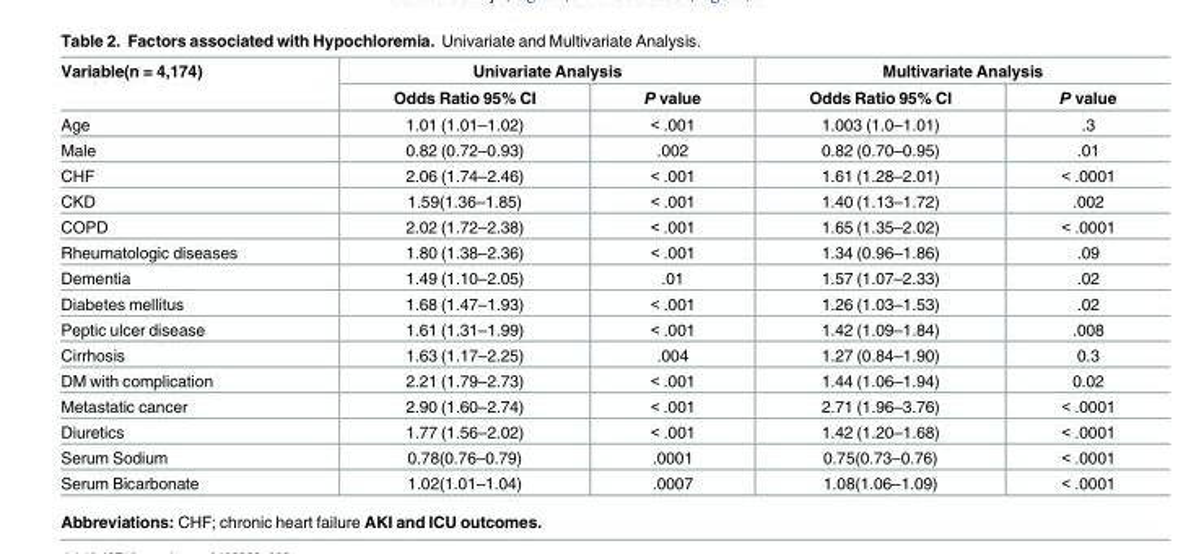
<table><thead><tr><td rowspan="2">Variable(n = 4,174)</td><td colspan="2">Univariate Analysis</td><td colspan="2">Multivariate Analysis</td></tr><tr><td>Odds Ratio 95% CI</td><td>P value</td><td>Odds Ratio 95% CI</td><td>P value</td></tr></thead><tbody><tr><td>Age</td><td>1.01 (1.01–1.02)</td><td>&lt; .001</td><td>1.003 (1.0–1.01)</td><td>.3</td></tr><tr><td>Male</td><td>0.82 (0.72–0.93)</td><td>.002</td><td>0.82 (0.70–0.95)</td><td>.01</td></tr><tr><td>CHF</td><td>2.06 (1.74–2.46)</td><td>&lt; .001</td><td>1.61 (1.28–2.01)</td><td>&lt; .0001</td></tr><tr><td>CKD</td><td>1.59(1.36–1.85)</td><td>&lt; .001</td><td>1.40 (1.13–1.72)</td><td>.002</td></tr><tr><td>COPD</td><td>2.02 (1.72–2.38)</td><td>&lt; .001</td><td>1.65 (1.35–2.02)</td><td>&lt; .0001</td></tr><tr><td>Rheumatologic diseases</td><td>1.80 (1.38–2.36)</td><td>&lt; .001</td><td>1.34 (0.96–1.86)</td><td>.09</td></tr><tr><td>Dementia</td><td>1.49 (1.10–2.05)</td><td>.01</td><td>1.57 (1.07–2.33)</td><td>.02</td></tr><tr><td>Diabetes mellitus</td><td>1.68 (1.47–1.93)</td><td>&lt; .001</td><td>1.26 (1.03–1.53)</td><td>.02</td></tr><tr><td>Peptic ulcer disease</td><td>1.61 (1.31–1.99)</td><td>&lt; .001</td><td>1.42 (1.09–1.84)</td><td>.008</td></tr><tr><td>Cirrhosis</td><td>1.63 (1.17–2.25)</td><td>.004</td><td>1.27 (0.84–1.90)</td><td>0.3</td></tr><tr><td>DM with complication</td><td>2.21 (1.79–2.73)</td><td>&lt; .001</td><td>1.44 (1.06–1.94)</td><td>0.02</td></tr><tr><td>Metastatic cancer</td><td>2.90 (1.60–2.74)</td><td>&lt; .001</td><td>2.71 (1.96–3.76)</td><td>&lt; .0001</td></tr><tr><td>Diuretics</td><td>1.77 (1.56–2.02)</td><td>&lt; .001</td><td>1.42 (1.20–1.68)</td><td>&lt; .0001</td></tr><tr><td>Serum Sodium</td><td>0.78(0.76–0.79)</td><td>.0001</td><td>0.75(0.73–0.76)</td><td>&lt; .0001</td></tr><tr><td>Serum Bicarbonate</td><td>1.02(1.01–1.04)</td><td>.0007</td><td>1.08(1.06–1.09)</td><td>&lt; .0001</td></tr></tbody></table>